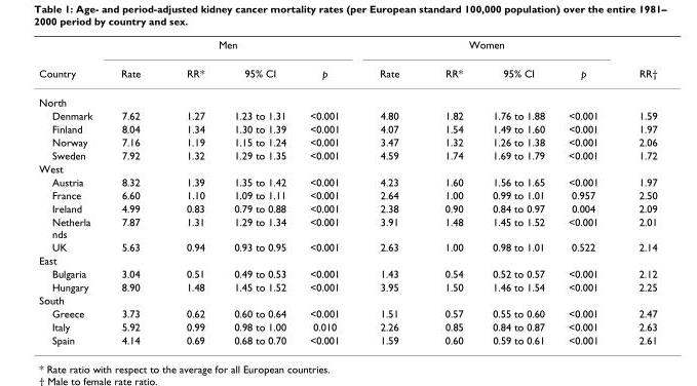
<table><thead><tr><td rowspan="2">Country</td><td colspan="4">Men</td><td colspan="4">Women</td><td rowspan="2">RR†</td></tr><tr><td>Rate</td><td>RR*</td><td>95% CI</td><td>p</td><td>Rate</td><td>RR*</td><td>95% CI</td><td>p</td></tr></thead><tbody><tr><td colspan="10">North</td></tr><tr><td>Denmark</td><td>7.62</td><td>1.27</td><td>1.23 to 1.31</td><td>&lt;0.001</td><td>4.80</td><td>1.82</td><td>1.76 to 1.88</td><td>&lt;0.001</td><td>1.59</td></tr><tr><td>Finland</td><td>8.04</td><td>1.34</td><td>1.30 to 1.39</td><td>&lt;0.001</td><td>4.07</td><td>1.54</td><td>1.49 to 1.60</td><td>&lt;0.001</td><td>1.97</td></tr><tr><td>Norway</td><td>7.16</td><td>1.19</td><td>1.15 to 1.24</td><td>&lt;0.001</td><td>3.47</td><td>1.32</td><td>1.26 to 1.38</td><td>&lt;0.001</td><td>2.06</td></tr><tr><td>Sweden</td><td>7.92</td><td>1.32</td><td>1.29 to 1.35</td><td>&lt;0.001</td><td>4.59</td><td>1.74</td><td>1.69 to 1.79</td><td>&lt;0.001</td><td>1.72</td></tr><tr><td colspan="10">West</td></tr><tr><td>Austria</td><td>8.32</td><td>1.39</td><td>1.35 to 1.42</td><td>&lt;0.001</td><td>4.23</td><td>1.60</td><td>1.56 to 1.65</td><td>&lt;0.001</td><td>1.97</td></tr><tr><td>France</td><td>6.60</td><td>1.10</td><td>1.09 to 1.11</td><td>&lt;0.001</td><td>2.64</td><td>1.00</td><td>0.99 to 1.01</td><td>0.957</td><td>2.50</td></tr><tr><td>Ireland</td><td>4.99</td><td>0.83</td><td>0.79 to 0.88</td><td>&lt;0.001</td><td>2.38</td><td>0.90</td><td>0.84 to 0.97</td><td>0.004</td><td>2.09</td></tr><tr><td>Netherla nds</td><td>7.87</td><td>1.31</td><td>1.29 to 1.34</td><td>&lt;0.001</td><td>3.91</td><td>1.48</td><td>1.45 to 1.52</td><td>&lt;0.001</td><td>2.01</td></tr><tr><td>UK</td><td>5.63</td><td>0.94</td><td>0.93 to 0.95</td><td>&lt;0.001</td><td>2.63</td><td>1.00</td><td>0.98 to 1.01</td><td>0.522</td><td>2.14</td></tr><tr><td colspan="10">East</td></tr><tr><td>Bulgaria</td><td>3.04</td><td>0.51</td><td>0.49 to 0.53</td><td>&lt;0.001</td><td>1.43</td><td>0.54</td><td>0.52 to 0.57</td><td>&lt;0.001</td><td>2.12</td></tr><tr><td>Hungary</td><td>8.90</td><td>1.48</td><td>1.45 to 1.52</td><td>&lt;0.001</td><td>3.95</td><td>1.50</td><td>1.46 to 1.54</td><td>&lt;0.001</td><td>2.25</td></tr><tr><td colspan="10">South</td></tr><tr><td>Greece</td><td>3.73</td><td>0.62</td><td>0.60 to 0.64</td><td>&lt;0.001</td><td>1.51</td><td>0.57</td><td>0.55 to 0.60</td><td>&lt;0.001</td><td>2.47</td></tr><tr><td>Italy</td><td>5.92</td><td>0.99</td><td>0.98 to 1.00</td><td>0.010</td><td>2.26</td><td>0.85</td><td>0.84 to 0.87</td><td>&lt;0.001</td><td>2.63</td></tr><tr><td>Spain</td><td>4.14</td><td>0.69</td><td>0.68 to 0.70</td><td>&lt;0.001</td><td>1.59</td><td>0.60</td><td>0.59 to 0.61</td><td>&lt;0.001</td><td>2.61</td></tr></tbody></table>